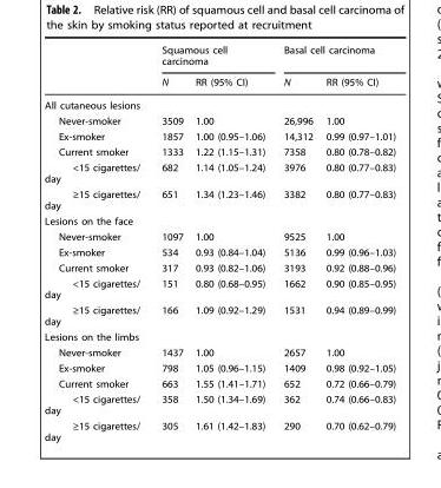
<table><thead><tr><td rowspan="2"></td><td colspan="2">Squamous cell carcinoma</td><td colspan="2">Basal cell carcinoma</td></tr><tr><td>N</td><td>RR (95% CI)</td><td>N</td><td>RR (95% CI)</td></tr></thead><tbody><tr><td colspan="5">All cutaneous lesions</td></tr><tr><td>Never-smoker</td><td>3509</td><td>1.00</td><td>26,996</td><td>1.00</td></tr><tr><td>Ex-smoker</td><td>1857</td><td>1.00 (0.95–1.06)</td><td>14,312</td><td>0.99 (0.97–1.01)</td></tr><tr><td>Current smoker</td><td>1333</td><td>1.22 (1.15–1.31)</td><td>7358</td><td>0.80 (0.78–0.82)</td></tr><tr><td>&lt;15 cigarettes/ day</td><td>682</td><td>1.14 (1.05–1.24)</td><td>3976</td><td>0.80 (0.77–0.83)</td></tr><tr><td>≥15 cigarettes/ day</td><td>651</td><td>1.34 (1.23–1.46)</td><td>3382</td><td>0.80 (0.77–0.83)</td></tr><tr><td colspan="5">Lesions on the face</td></tr><tr><td>Never-smoker</td><td>1097</td><td>1.00</td><td>9525</td><td>1.00</td></tr><tr><td>Ex-smoker</td><td>534</td><td>0.93 (0.84–1.04)</td><td>5136</td><td>0.99 (0.96–1.03)</td></tr><tr><td>Current smoker</td><td>317</td><td>0.93 (0.82–1.06)</td><td>3193</td><td>0.92 (0.88–0.96)</td></tr><tr><td>&lt;15 cigarettes/ day</td><td>151</td><td>0.80 (0.68–0.95)</td><td>1662</td><td>0.90 (0.85–0.95)</td></tr><tr><td>≥15 cigarettes/ day</td><td>166</td><td>1.09 (0.92–1.29)</td><td>1531</td><td>0.94 (0.89–0.99)</td></tr><tr><td colspan="5">Lesions on the limbs</td></tr><tr><td>Never-smoker</td><td>1437</td><td>1.00</td><td>2657</td><td>1.00</td></tr><tr><td>Ex-smoker</td><td>798</td><td>1.05 (0.96–1.15)</td><td>1409</td><td>0.98 (0.92–1.05)</td></tr><tr><td>Current smoker</td><td>663</td><td>1.55 (1.41–1.71)</td><td>652</td><td>0.72 (0.66–0.79)</td></tr><tr><td>&lt;15 cigarettes/ day</td><td>358</td><td>1.50 (1.34–1.69)</td><td>362</td><td>0.74 (0.66–0.83)</td></tr><tr><td>≥15 cigarettes/ day</td><td>305</td><td>1.61 (1.42–1.83)</td><td>290</td><td>0.70 (0.62–0.79)</td></tr></tbody></table>